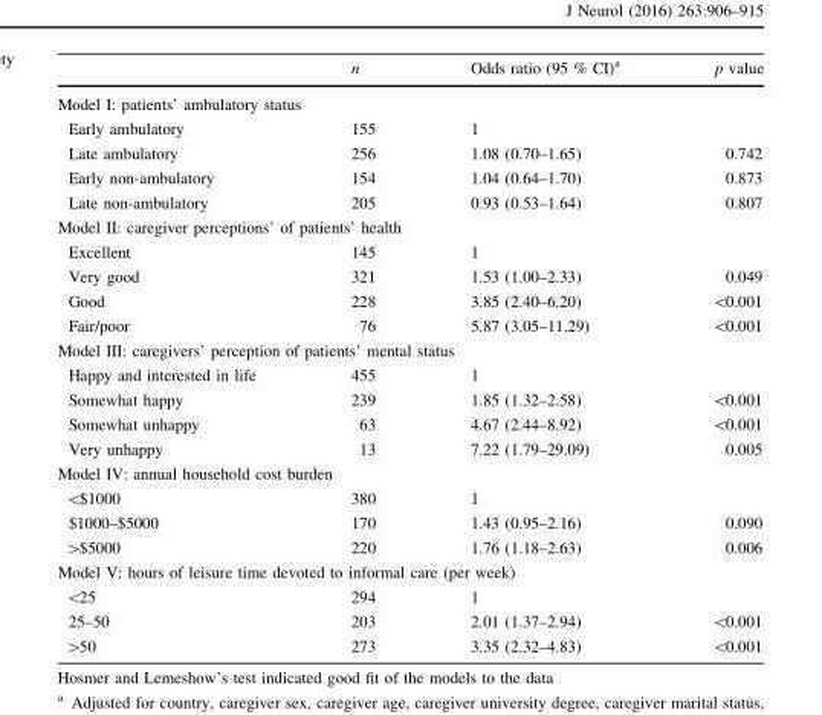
<table><thead><tr><td></td><td>n</td><td>Odds ratio (95 % CI)<sup>a</sup></td><td>p value</td></tr></thead><tbody><tr><td colspan="4">Model I: patients’ ambulatory status</td></tr><tr><td>Early ambulatory</td><td>155</td><td>1</td><td></td></tr><tr><td>Late ambulatory</td><td>256</td><td>1.08 (0.70–1.65)</td><td>0.742</td></tr><tr><td>Early non-ambulatory</td><td>154</td><td>1.04 (0.64–1.70)</td><td>0.873</td></tr><tr><td>Late non-ambulatory</td><td>205</td><td>0.93 (0.53–1.64)</td><td>0.807</td></tr><tr><td colspan="4">Model II: caregiver perceptions’ of patients’ health</td></tr><tr><td>Excellent</td><td>145</td><td>1</td><td></td></tr><tr><td>Very good</td><td>321</td><td>1.53 (1.00–2.33)</td><td>0.049</td></tr><tr><td>Good</td><td>228</td><td>3.85 (2.40–6.20)</td><td>&lt;0.001</td></tr><tr><td>Fair/poor</td><td>76</td><td>5.87 (3.05–11.29)</td><td>&lt;0.001</td></tr><tr><td colspan="4">Model III: caregivers’ perception of patients’ mental status</td></tr><tr><td>Happy and interested in life</td><td>455</td><td>1</td><td></td></tr><tr><td>Somewhat happy</td><td>239</td><td>1.85 (1.32–2.58)</td><td>&lt;0.001</td></tr><tr><td>Somewhat unhappy</td><td>63</td><td>4.67 (2.44–8.92)</td><td>&lt;0.001</td></tr><tr><td>Very unhappy</td><td>13</td><td>7.22 (1.79–29.09)</td><td>0.005</td></tr><tr><td colspan="4">Model IV: annual household cost burden</td></tr><tr><td>&lt;$1000</td><td>380</td><td>1</td><td></td></tr><tr><td>$1000–$5000</td><td>170</td><td>1.43 (0.95–2.16)</td><td>0.090</td></tr><tr><td>&gt;$5000</td><td>220</td><td>1.76 (1.18–2.63)</td><td>0.006</td></tr><tr><td colspan="4">Model V: hours of leisure time devoted to informal care (per week)</td></tr><tr><td>&lt;25</td><td>294</td><td>1</td><td></td></tr><tr><td>25–50</td><td>203</td><td>2.01 (1.37–2.94)</td><td>&lt;0.001</td></tr><tr><td>&gt;50</td><td>273</td><td>3.35 (2.32–4.83)</td><td>&lt;0.001</td></tr></tbody></table>